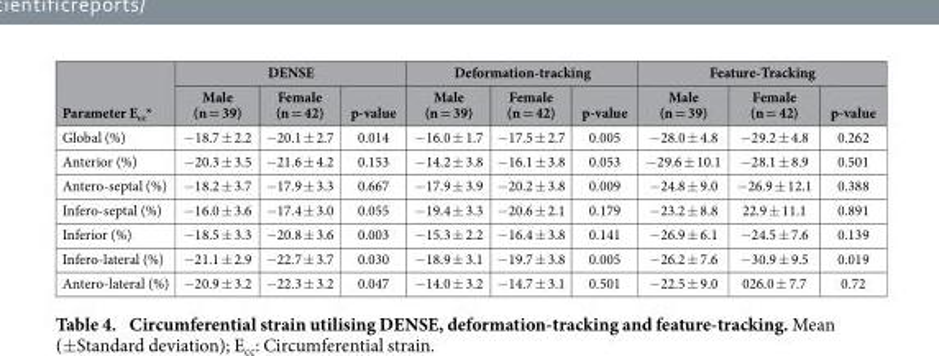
<table><thead><tr><td rowspan="2">Parameter E<sub>cc</sub>*</td><td colspan="3">DENSE</td><td colspan="3">Deformation-tracking</td><td colspan="3">Feature-Tracking</td></tr><tr><td>Male (n = 39)</td><td>Female (n = 42)</td><td>p-value</td><td>Male (n = 39)</td><td>Female (n = 42)</td><td>p-value</td><td>Male (n = 39)</td><td>Female (n = 42)</td><td>p-value</td></tr></thead><tbody><tr><td>Global (%)</td><td>− 18.7 ± 2.2</td><td>− 20.1 ± 2.7</td><td>0.014</td><td>− 16.0 ± 1.7</td><td>− 17.5 ± 2.7</td><td>0.005</td><td>− 28.0 ± 4.8</td><td>− 29.2 ± 4.8</td><td>0.262</td></tr><tr><td>Anterior (%)</td><td>− 20.3 ± 3.5</td><td>− 21.6 ± 4.2</td><td>0.153</td><td>− 14.2 ± 3.8</td><td>− 16.1 ± 3.8</td><td>0.053</td><td>− 29.6 ± 10.1</td><td>− 28.1 ± 8.9</td><td>0.501</td></tr><tr><td>Antero-septal (%)</td><td>− 18.2 ± 3.7</td><td>− 17.9 ± 3.3</td><td>0.667</td><td>− 17.9 ± 3.9</td><td>− 20.2 ± 3.8</td><td>0.009</td><td>− 24.8 ± 9.0</td><td>− 26.9 ± 12.1</td><td>0.388</td></tr><tr><td>Infero-septal (%)</td><td>− 16.0 ± 3.6</td><td>− 17.4 ± 3.0</td><td>0.055</td><td>− 19.4 ± 3.3</td><td>− 20.6 ± 2.1</td><td>0.179</td><td>− 23.2 ± 8.8</td><td>22.9 ± 11.1</td><td>0.891</td></tr><tr><td>Inferior (%)</td><td>− 18.5 ± 3.3</td><td>− 20.8 ± 3.6</td><td>0.003</td><td>− 15.3 ± 2.2</td><td>− 16.4 ± 3.8</td><td>0.141</td><td>− 26.9 ± 6.1</td><td>− 24.5 ± 7.6</td><td>0.139</td></tr><tr><td>Infero-lateral (%)</td><td>− 21.1 ± 2.9</td><td>− 22.7 ± 3.7</td><td>0.030</td><td>− 18.9 ± 3.1</td><td>− 19.7 ± 3.8</td><td>0.005</td><td>− 26.2 ± 7.6</td><td>− 30.9 ± 9.5</td><td>0.019</td></tr><tr><td>Antero-lateral (%)</td><td>− 20.9 ± 3.2</td><td>− 22.3 ± 3.2</td><td>0.047</td><td>− 14.0 ± 3.2</td><td>− 14.7 ± 3.1</td><td>0.501</td><td>− 22.5 ± 9.0</td><td>026.0 ± 7.7</td><td>0.72</td></tr></tbody></table>